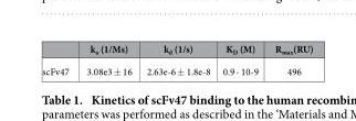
<table><thead><tr><td></td><td>k<sub>a</sub> (1/Ms)</td><td>k<sub>d</sub> (1/s)</td><td>K<sub>D</sub> (M)</td><td>R<sub>max</sub>(RU)</td></tr></thead><tbody><tr><td>scFv47</td><td>3.08e3 ± 16</td><td>2.63e-6 ± 1.8e-8</td><td>0.9 · 10-9</td><td>496</td></tr></tbody></table>